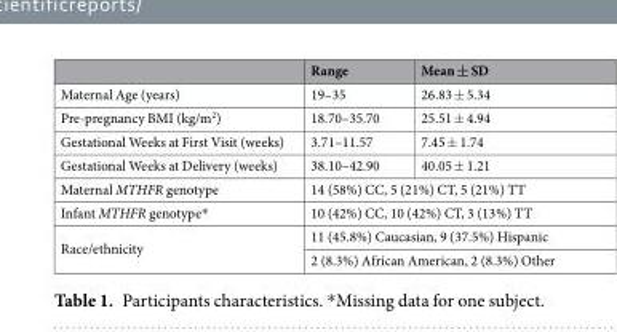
<table><thead><tr><td></td><td>Range</td><td>Mean ± SD</td></tr></thead><tbody><tr><td>Maternal Age (years)</td><td>19–35</td><td>26.83 ± 5.34</td></tr><tr><td>Pre-pregnancy BMI (kg/m<sup>2</sup>)</td><td>18.70–35.70</td><td>25.51 ± 4.94</td></tr><tr><td>Gestational Weeks at First Visit (weeks)</td><td>3.71–11.57</td><td>7.45 ± 1.74</td></tr><tr><td>Gestational Weeks at Delivery (weeks)</td><td>38.10–42.90</td><td>40.05 ± 1.21</td></tr><tr><td>Maternal MTHFR genotype</td><td colspan="2">14 (58%) CC, 5 (21%) CT, 5 (21%) TT</td></tr><tr><td>Infant MTHFR genotype*</td><td colspan="2">10 (42%) CC, 10 (42%) CT, 3 (13%) TT</td></tr><tr><td rowspan="2">Race/ethnicity</td><td colspan="2">11 (45.8%) Caucasian, 9 (37.5%) Hispanic</td></tr><tr><td colspan="2">2 (8.3%) African American, 2 (8.3%) Other</td></tr></tbody></table>